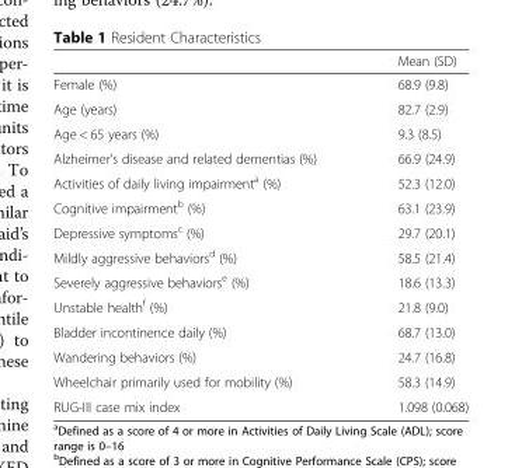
<table><thead><tr><td></td><td>Mean (SD)</td></tr></thead><tbody><tr><td>Female (%)</td><td>68.9 (9.8)</td></tr><tr><td>Age (years)</td><td>82.7 (2.9)</td></tr><tr><td>Age &lt; 65 years (%)</td><td>9.3 (8.5)</td></tr><tr><td>Alzheimer’s disease and related dementias (%)</td><td>66.9 (24.9)</td></tr><tr><td>Activities of daily living impairment<sup>a</sup> (%)</td><td>52.3 (12.0)</td></tr><tr><td>Cognitive impairment<sup>b</sup> (%)</td><td>63.1 (23.9)</td></tr><tr><td>Depressive symptoms<sup>c</sup> (%)</td><td>29.7 (20.1)</td></tr><tr><td>Mildly aggressive behaviors<sup>d</sup> (%)</td><td>58.5 (21.4)</td></tr><tr><td>Severely aggressive behaviors<sup>e</sup> (%)</td><td>18.6 (13.3)</td></tr><tr><td>Unstable health<sup>f</sup> (%)</td><td>21.8 (9.0)</td></tr><tr><td>Bladder incontinence daily (%)</td><td>68.7 (13.0)</td></tr><tr><td>Wandering behaviors (%)</td><td>24.7 (16.8)</td></tr><tr><td>Wheelchair primarily used for mobility (%)</td><td>58.3 (14.9)</td></tr><tr><td>RUG-III case mix index</td><td>1.098 (0.068)</td></tr></tbody></table>